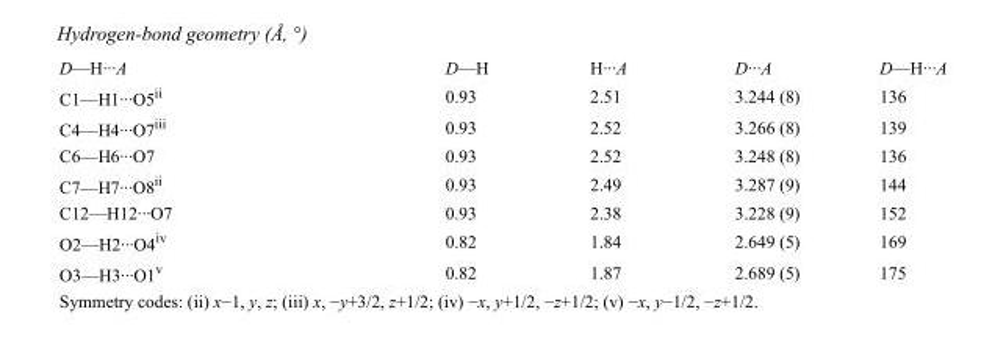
<table><tbody><tr><td>D—H···A</td><td>D—H</td><td>H···A</td><td>D···A</td><td>D—H···A</td></tr><tr><td>C1—H1···O5<sup>ii</sup></td><td>0.93</td><td>2.51</td><td>3.244 (8)</td><td>136</td></tr><tr><td>C4—H4···O7<sup>iii</sup></td><td>0.93</td><td>2.52</td><td>3.266 (8)</td><td>139</td></tr><tr><td>C6—H6···O7</td><td>0.93</td><td>2.52</td><td>3.248 (8)</td><td>136</td></tr><tr><td>C7—H7···O8<sup>ii</sup></td><td>0.93</td><td>2.49</td><td>3.287 (9)</td><td>144</td></tr><tr><td>C12—H12···O7</td><td>0.93</td><td>2.38</td><td>3.228 (9)</td><td>152</td></tr><tr><td>O2—H2···O4<sup>iv</sup></td><td>0.82</td><td>1.84</td><td>2.649 (5)</td><td>169</td></tr><tr><td>O3—H3···O1<sup>v</sup></td><td>0.82</td><td>1.87</td><td>2.689 (5)</td><td>175</td></tr></tbody></table>